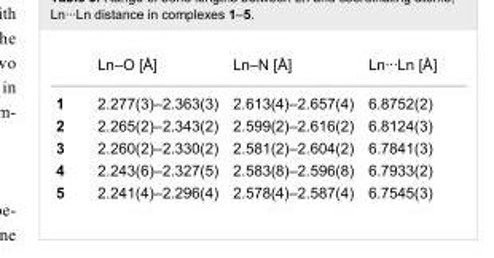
<table><thead><tr><td></td><td>Ln–O [Å]</td><td>Ln–N [Å]</td><td>Ln···Ln [Å]</td></tr></thead><tbody><tr><td>1</td><td>2.277(3)–2.363(3)</td><td>2.613(4)–2.657(4)</td><td>6.8752(2)</td></tr><tr><td>2</td><td>2.265(2)–2.343(2)</td><td>2.599(2)–2.616(2)</td><td>6.8124(3)</td></tr><tr><td>3</td><td>2.260(2)–2.330(2)</td><td>2.581(2)–2.604(2)</td><td>6.7841(3)</td></tr><tr><td>4</td><td>2.243(6)–2.327(5)</td><td>2.583(8)–2.596(8)</td><td>6.7933(2)</td></tr><tr><td>5</td><td>2.241(4)–2.296(4)</td><td>2.578(4)–2.587(4)</td><td>6.7545(3)</td></tr></tbody></table>